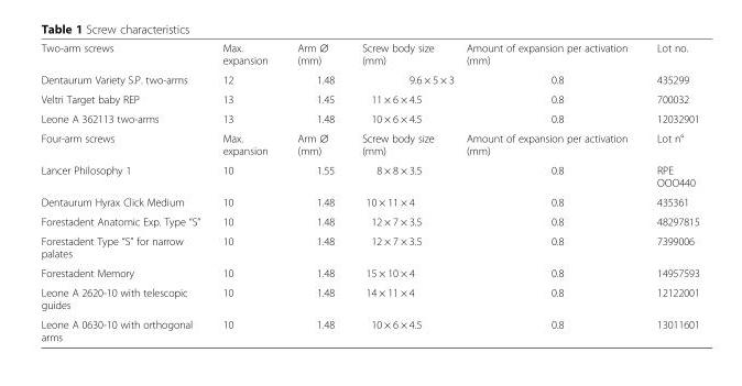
<table><tbody><tr><td>Two-arm screws</td><td>Max. expansion</td><td>Arm ∅ (mm)</td><td>Screw body size (mm)</td><td>Amount of expansion per activation (mm)</td><td>Lot no.</td></tr><tr><td>Dentaurum Variety S.P. two-arms</td><td>12</td><td>1.48</td><td>9.6 × 5 × 3</td><td>0.8</td><td>435299</td></tr><tr><td>Veltri Target baby REP</td><td>13</td><td>1.45</td><td>11 × 6 × 4.5</td><td>0.8</td><td>700032</td></tr><tr><td>Leone A 362113 two-arms</td><td>13</td><td>1.48</td><td>10 × 6 × 4.5</td><td>0.8</td><td>12032901</td></tr><tr><td>Four-arm screws</td><td>Max. expansion</td><td>Arm ∅ (mm)</td><td>Screw body size (mm)</td><td>Amount of expansion per activation (mm)</td><td>Lot n°</td></tr><tr><td>Lancer Philosophy 1</td><td>10</td><td>1.55</td><td>8 × 8 × 3.5</td><td>0.8</td><td>RPE OOO440</td></tr><tr><td>Dentaurum Hyrax Click Medium</td><td>10</td><td>1.48</td><td>10 × 11 × 4</td><td>0.8</td><td>435361</td></tr><tr><td>Forestadent Anatomic Exp. Type “S”</td><td>10</td><td>1.48</td><td>12 × 7 × 3.5</td><td>0.8</td><td>48297815</td></tr><tr><td>Forestadent Type “S” for narrow palates</td><td>10</td><td>1.48</td><td>12 × 7 × 3.5</td><td>0.8</td><td>7399006</td></tr><tr><td>Forestadent Memory</td><td>10</td><td>1.48</td><td>15 × 10 × 4</td><td>0.8</td><td>14957593</td></tr><tr><td>Leone A 2620-10 with telescopic guides</td><td>10</td><td>1.48</td><td>14 × 11 × 4</td><td>0.8</td><td>12122001</td></tr><tr><td>Leone A 0630-10 with orthogonal arms</td><td>10</td><td>1.48</td><td>10 × 6 × 4.5</td><td>0.8</td><td>13011601</td></tr></tbody></table>